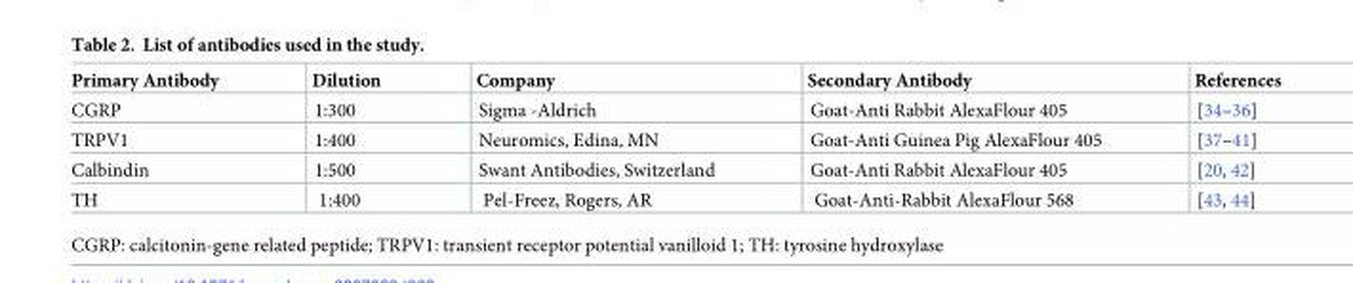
<table><thead><tr><td>Primary Antibody</td><td>Dilution</td><td>Company</td><td>Secondary Antibody</td><td>References</td></tr></thead><tbody><tr><td>CGRP</td><td>1:300</td><td>Sigma -Aldrich</td><td>Goat-Anti Rabbit AlexaFlour 405</td><td>[34–36]</td></tr><tr><td>TRPV1</td><td>1:400</td><td>Neuromics, Edina, MN</td><td>Goat-Anti Guinea Pig AlexaFlour 405</td><td>[37–41]</td></tr><tr><td>Calbindin</td><td>1:500</td><td>Swant Antibodies, Switzerland</td><td>Goat-Anti Rabbit AlexaFlour 405</td><td>[20, 42]</td></tr><tr><td>TH</td><td>1:400</td><td>Pel-Freez, Rogers, AR</td><td>Goat-Anti-Rabbit AlexaFlour 568</td><td>[43, 44]</td></tr></tbody></table>